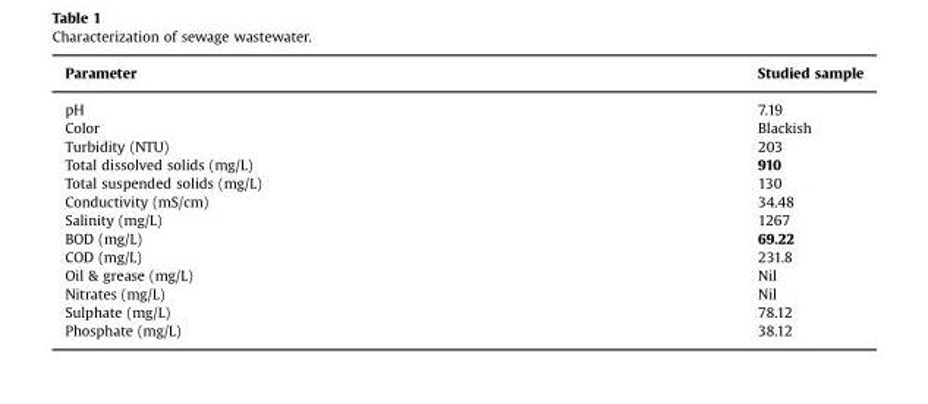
<table><thead><tr><td>Parameter</td><td>Studied sample</td></tr></thead><tbody><tr><td>pH</td><td>7.19</td></tr><tr><td>Color</td><td>Blackish</td></tr><tr><td>Turbidity (NTU)</td><td>203</td></tr><tr><td>Total dissolved solids (mg/L)</td><td>910</td></tr><tr><td>Total suspended solids (mg/L)</td><td>130</td></tr><tr><td>Conductivity (mS/cm)</td><td>34.48</td></tr><tr><td>Salinity (mg/L)</td><td>1267</td></tr><tr><td>BOD (mg/L)</td><td>69.22</td></tr><tr><td>COD (mg/L)</td><td>231.8</td></tr><tr><td>Oil &amp; grease (mg/L)</td><td>Nil</td></tr><tr><td>Nitrates (mg/L)</td><td>Nil</td></tr><tr><td>Sulphate (mg/L)</td><td>78.12</td></tr><tr><td>Phosphate (mg/L)</td><td>38.12</td></tr></tbody></table>